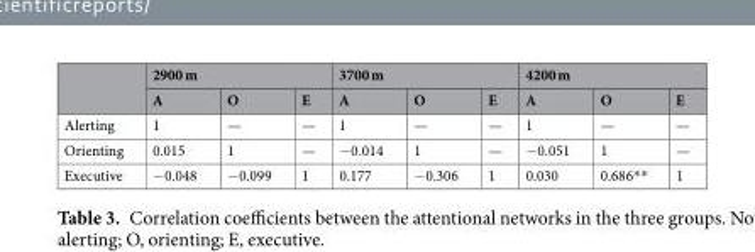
<table><thead><tr><td rowspan="2"></td><td colspan="3">2900 m</td><td colspan="3">3700 m</td><td colspan="3">4200 m</td></tr><tr><td>A</td><td>O</td><td>E</td><td>A</td><td>O</td><td>E</td><td>A</td><td>O</td><td>E</td></tr></thead><tbody><tr><td>Alerting</td><td>1</td><td>—</td><td>—</td><td>1</td><td>—</td><td>—</td><td>1</td><td>—</td><td>—</td></tr><tr><td>Orienting</td><td>0.015</td><td>1</td><td>—</td><td>−0.014</td><td>1</td><td>—</td><td>−0.051</td><td>1</td><td>—</td></tr><tr><td>Executive</td><td>−0.048</td><td>−0.099</td><td>1</td><td>0.177</td><td>−0.306</td><td>1</td><td>0.030</td><td>0.686**</td><td>1</td></tr></tbody></table>